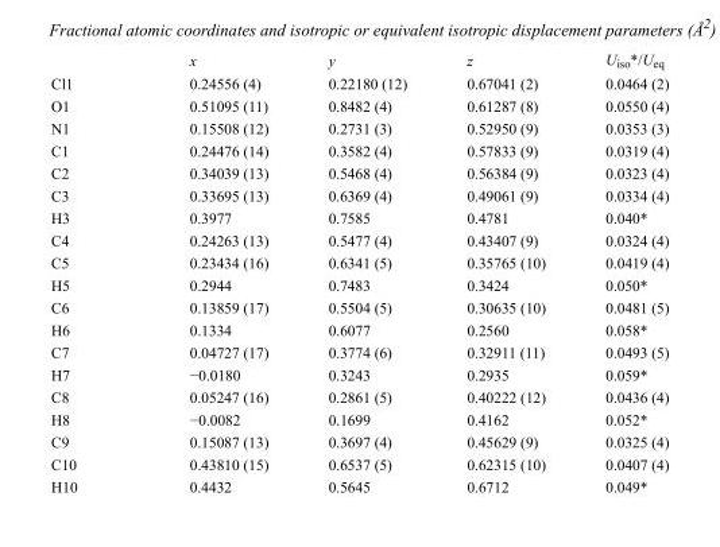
<table><thead><tr><td></td><td>x</td><td>y</td><td>z</td><td>U<sub>iso</sub>*/U<sub>eq</sub></td></tr></thead><tbody><tr><td>Cl1</td><td>0.24556 (4)</td><td>0.22180 (12)</td><td>0.67041 (2)</td><td>0.0464 (2)</td></tr><tr><td>O1</td><td>0.51095 (11)</td><td>0.8482 (4)</td><td>0.61287 (8)</td><td>0.0550 (4)</td></tr><tr><td>N1</td><td>0.15508 (12)</td><td>0.2731 (3)</td><td>0.52950 (9)</td><td>0.0353 (3)</td></tr><tr><td>C1</td><td>0.24476 (14)</td><td>0.3582 (4)</td><td>0.57833 (9)</td><td>0.0319 (4)</td></tr><tr><td>C2</td><td>0.34039 (13)</td><td>0.5468 (4)</td><td>0.56384 (9)</td><td>0.0323 (4)</td></tr><tr><td>C3</td><td>0.33695 (13)</td><td>0.6369 (4)</td><td>0.49061 (9)</td><td>0.0334 (4)</td></tr><tr><td>H3</td><td>0.3977</td><td>0.7585</td><td>0.4781</td><td>0.040*</td></tr><tr><td>C4</td><td>0.24263 (13)</td><td>0.5477 (4)</td><td>0.43407 (9)</td><td>0.0324 (4)</td></tr><tr><td>C5</td><td>0.23434 (16)</td><td>0.6341 (5)</td><td>0.35765 (10)</td><td>0.0419 (4)</td></tr><tr><td>H5</td><td>0.2944</td><td>0.7483</td><td>0.3424</td><td>0.050*</td></tr><tr><td>C6</td><td>0.13859 (17)</td><td>0.5504 (5)</td><td>0.30635 (10)</td><td>0.0481 (5)</td></tr><tr><td>H6</td><td>0.1334</td><td>0.6077</td><td>0.2560</td><td>0.058*</td></tr><tr><td>C7</td><td>0.04727 (17)</td><td>0.3774 (6)</td><td>0.32911 (11)</td><td>0.0493 (5)</td></tr><tr><td>H7</td><td>−0.0180</td><td>0.3243</td><td>0.2935</td><td>0.059*</td></tr><tr><td>C8</td><td>0.05247 (16)</td><td>0.2861 (5)</td><td>0.40222 (12)</td><td>0.0436 (4)</td></tr><tr><td>H8</td><td>−0.0082</td><td>0.1699</td><td>0.4162</td><td>0.052*</td></tr><tr><td>C9</td><td>0.15087 (13)</td><td>0.3697 (4)</td><td>0.45629 (9)</td><td>0.0325 (4)</td></tr><tr><td>C10</td><td>0.43810 (15)</td><td>0.6537 (5)</td><td>0.62315 (10)</td><td>0.0407 (4)</td></tr><tr><td>H10</td><td>0.4432</td><td>0.5645</td><td>0.6712</td><td>0.049*</td></tr></tbody></table>